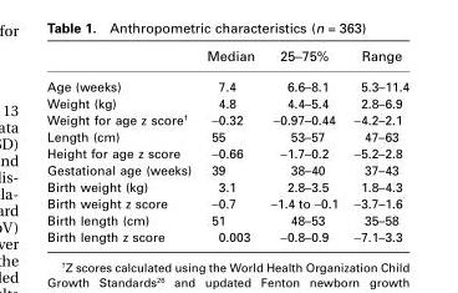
<table><thead><tr><td></td><td>Median</td><td>25–75%</td><td>Range</td></tr></thead><tbody><tr><td>Age (weeks)</td><td>7.4</td><td>6.6–8.1</td><td>5.3–11.4</td></tr><tr><td>Weight (kg)</td><td>4.8</td><td>4.4–5.4</td><td>2.8–6.9</td></tr><tr><td>Weight for age z score†</td><td>−0.32</td><td>−0.97–0.44</td><td>−4.2–2.1</td></tr><tr><td>Length (cm)</td><td>55</td><td>53–57</td><td>47–63</td></tr><tr><td>Height for age z score</td><td>−0.66</td><td>−1.7–0.2</td><td>−5.2–2.8</td></tr><tr><td>Gestational age (weeks)</td><td>39</td><td>38–40</td><td>37–43</td></tr><tr><td>Birth weight (kg)</td><td>3.1</td><td>2.8–3.5</td><td>1.8–4.3</td></tr><tr><td>Birth weight z score</td><td>−0.7</td><td>−1.4 to −0.1</td><td>−3.7–1.6</td></tr><tr><td>Birth length (cm)</td><td>51</td><td>48–53</td><td>35–58</td></tr><tr><td>Birth length z score</td><td>0.003</td><td>−0.8–0.9</td><td>−7.1–3.3</td></tr></tbody></table>